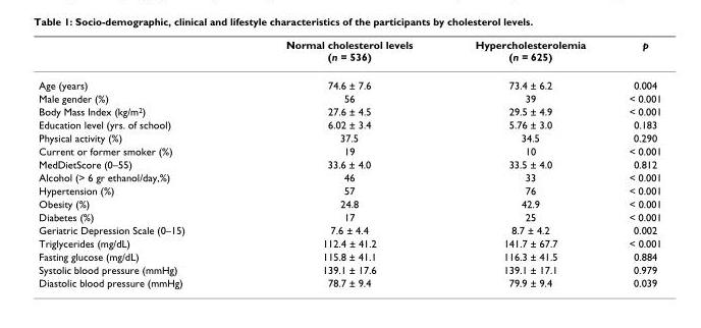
<table><thead><tr><td></td><td>Normal cholesterol levels (n = 536)</td><td>Hypercholesterolemia (n = 625)</td><td>p</td></tr></thead><tbody><tr><td>Age (years)</td><td>74.6 ± 7.6</td><td>73.4 ± 6.2</td><td>0.004</td></tr><tr><td>Male gender (%)</td><td>56</td><td>39</td><td>&lt; 0.001</td></tr><tr><td>Body Mass Index (kg/m<sup>2</sup>)</td><td>27.6 ± 4.5</td><td>29.5 ± 4.9</td><td>&lt; 0.001</td></tr><tr><td>Education level (yrs. of school)</td><td>6.02 ± 3.4</td><td>5.76 ± 3.0</td><td>0.183</td></tr><tr><td>Physical activity (%)</td><td>37.5</td><td>34.5</td><td>0.290</td></tr><tr><td>Current or former smoker (%)</td><td>19</td><td>10</td><td>&lt; 0.001</td></tr><tr><td>MedDietScore (0–55)</td><td>33.6 ± 4.0</td><td>33.5 ± 4.0</td><td>0.812</td></tr><tr><td>Alcohol (&gt; 6 gr ethanol/day,%)</td><td>46</td><td>33</td><td>&lt; 0.001</td></tr><tr><td>Hypertension (%)</td><td>57</td><td>76</td><td>&lt; 0.001</td></tr><tr><td>Obesity (%)</td><td>24.8</td><td>42.9</td><td>&lt; 0.001</td></tr><tr><td>Diabetes (%)</td><td>17</td><td>25</td><td>&lt; 0.001</td></tr><tr><td>Geriatric Depression Scale (0–15)</td><td>7.6 ± 4.4</td><td>8.7 ± 4.2</td><td>0.002</td></tr><tr><td>Triglycerides (mg/dL)</td><td>112.4 ± 41.2</td><td>141.7 ± 67.7</td><td>&lt; 0.001</td></tr><tr><td>Fasting glucose (mg/dL)</td><td>115.8 ± 41.1</td><td>116.3 ± 41.5</td><td>0.884</td></tr><tr><td>Systolic blood pressure (mmHg)</td><td>139.1 ± 17.6</td><td>139.1 ± 17.1</td><td>0.979</td></tr><tr><td>Diastolic blood pressure (mmHg)</td><td>78.7 ± 9.4</td><td>79.9 ± 9.4</td><td>0.039</td></tr></tbody></table>